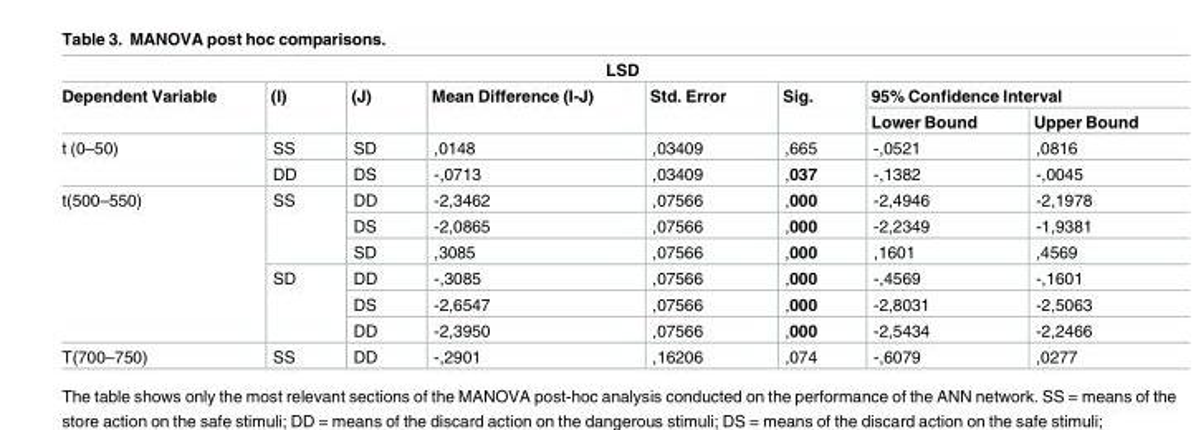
<table><thead><tr><td colspan="8">LSD</td></tr><tr><td rowspan="2">Dependent Variable</td><td rowspan="2">(I)</td><td rowspan="2">(J)</td><td rowspan="2">Mean Difference (I-J)</td><td rowspan="2">Std. Error</td><td rowspan="2">Sig.</td><td colspan="2">95% Confidence Interval</td></tr><tr><td>Lower Bound</td><td>Upper Bound</td></tr></thead><tbody><tr><td rowspan="2">t (0–50)</td><td>SS</td><td>SD</td><td>,0148</td><td>,03409</td><td>,665</td><td>-,0521</td><td>,0816</td></tr><tr><td>DD</td><td>DS</td><td>-,0713</td><td>,03409</td><td>,037</td><td>-,1382</td><td>-,0045</td></tr><tr><td rowspan="6">t(500–550)</td><td rowspan="3">SS</td><td>DD</td><td>-2,3462</td><td>,07566</td><td>,000</td><td>-2,4946</td><td>-2,1978</td></tr><tr><td>DS</td><td>-2,0865</td><td>,07566</td><td>,000</td><td>-2,2349</td><td>-1,9381</td></tr><tr><td>SD</td><td>,3085</td><td>,07566</td><td>,000</td><td>,1601</td><td>,4569</td></tr><tr><td rowspan="3">SD</td><td>DD</td><td>-,3085</td><td>,07566</td><td>,000</td><td>-,4569</td><td>-,1601</td></tr><tr><td>DS</td><td>-2,6547</td><td>,07566</td><td>,000</td><td>-2,8031</td><td>-2,5063</td></tr><tr><td>DD</td><td>-2,3950</td><td>,07566</td><td>,000</td><td>-2,5434</td><td>-2,2466</td></tr><tr><td>T(700–750)</td><td>SS</td><td>DD</td><td>-,2901</td><td>,16206</td><td>,074</td><td>-,6079</td><td>,0277</td></tr></tbody></table>